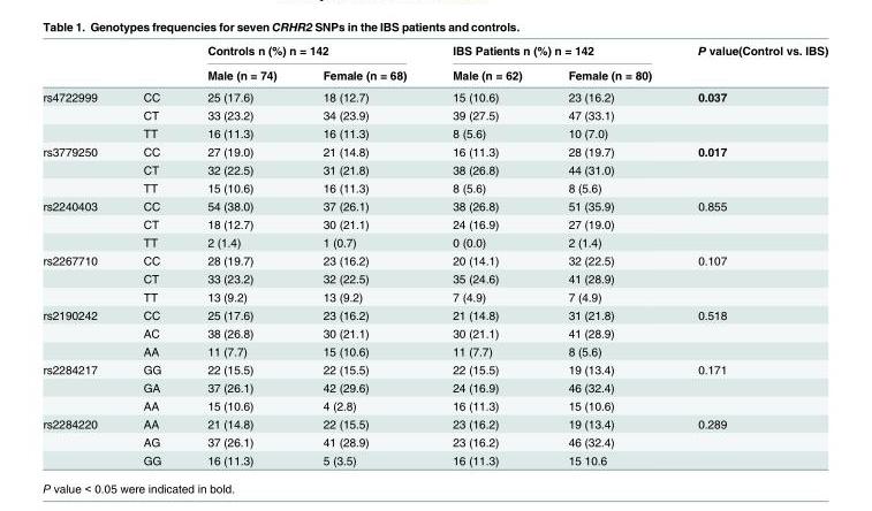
<table><thead><tr><td rowspan="2"></td><td rowspan="2"></td><td colspan="2">Controls n (%) n = 142</td><td colspan="2">IBS Patients n (%) n = 142</td><td rowspan="2">P value(Control vs. IBS)</td></tr><tr><td>Male (n = 74)</td><td>Female (n = 68)</td><td>Male (n = 62)</td><td>Female (n = 80)</td></tr></thead><tbody><tr><td rowspan="3">rs4722999</td><td>CC</td><td>25 (17.6)</td><td>18 (12.7)</td><td>15 (10.6)</td><td>23 (16.2)</td><td>0.037</td></tr><tr><td>CT</td><td>33 (23.2)</td><td>34 (23.9)</td><td>39 (27.5)</td><td>47 (33.1)</td><td></td></tr><tr><td>TT</td><td>16 (11.3)</td><td>16 (11.3)</td><td>8 (5.6)</td><td>10 (7.0)</td><td></td></tr><tr><td rowspan="3">rs3779250</td><td>CC</td><td>27 (19.0)</td><td>21 (14.8)</td><td>16 (11.3)</td><td>28 (19.7)</td><td>0.017</td></tr><tr><td>CT</td><td>32 (22.5)</td><td>31 (21.8)</td><td>38 (26.8)</td><td>44 (31.0)</td><td></td></tr><tr><td>TT</td><td>15 (10.6)</td><td>16 (11.3)</td><td>8 (5.6)</td><td>8 (5.6)</td><td></td></tr><tr><td rowspan="3">rs2240403</td><td>CC</td><td>54 (38.0)</td><td>37 (26.1)</td><td>38 (26.8)</td><td>51 (35.9)</td><td>0.855</td></tr><tr><td>CT</td><td>18 (12.7)</td><td>30 (21.1)</td><td>24 (16.9)</td><td>27 (19.0)</td><td></td></tr><tr><td>TT</td><td>2 (1.4)</td><td>1 (0.7)</td><td>0 (0.0)</td><td>2 (1.4)</td><td></td></tr><tr><td rowspan="3">rs2267710</td><td>CC</td><td>28 (19.7)</td><td>23 (16.2)</td><td>20 (14.1)</td><td>32 (22.5)</td><td>0.107</td></tr><tr><td>CT</td><td>33 (23.2)</td><td>32 (22.5)</td><td>35 (24.6)</td><td>41 (28.9)</td><td></td></tr><tr><td>TT</td><td>13 (9.2)</td><td>13 (9.2)</td><td>7 (4.9)</td><td>7 (4.9)</td><td></td></tr><tr><td rowspan="3">rs2190242</td><td>CC</td><td>25 (17.6)</td><td>23 (16.2)</td><td>21 (14.8)</td><td>31 (21.8)</td><td>0.518</td></tr><tr><td>AC</td><td>38 (26.8)</td><td>30 (21.1)</td><td>30 (21.1)</td><td>41 (28.9)</td><td></td></tr><tr><td>AA</td><td>11 (7.7)</td><td>15 (10.6)</td><td>11 (7.7)</td><td>8 (5.6)</td><td></td></tr><tr><td rowspan="3">rs2284217</td><td>GG</td><td>22 (15.5)</td><td>22 (15.5)</td><td>22 (15.5)</td><td>19 (13.4)</td><td>0.171</td></tr><tr><td>GA</td><td>37 (26.1)</td><td>42 (29.6)</td><td>24 (16.9)</td><td>46 (32.4)</td><td></td></tr><tr><td>AA</td><td>15 (10.6)</td><td>4 (2.8)</td><td>16 (11.3)</td><td>15 (10.6)</td><td></td></tr><tr><td rowspan="3">rs2284220</td><td>AA</td><td>21 (14.8)</td><td>22 (15.5)</td><td>23 (16.2)</td><td>19 (13.4)</td><td>0.289</td></tr><tr><td>AG</td><td>37 (26.1)</td><td>41 (28.9)</td><td>23 (16.2)</td><td>46 (32.4)</td><td></td></tr><tr><td>GG</td><td>16 (11.3)</td><td>5 (3.5)</td><td>16 (11.3)</td><td>15 10.6</td><td></td></tr></tbody></table>